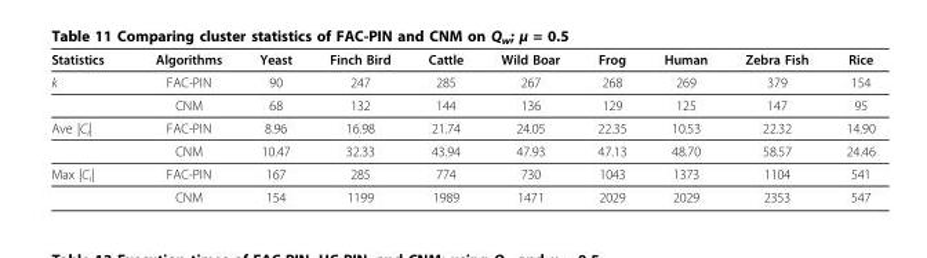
<table><thead><tr><td>Statistics</td><td>Algorithms</td><td>Yeast</td><td>Finch Bird</td><td>Cattle</td><td>Wild Boar</td><td>Frog</td><td>Human</td><td>Zebra Fish</td><td>Rice</td></tr></thead><tbody><tr><td rowspan="2">k</td><td>FAC-PIN</td><td>90</td><td>247</td><td>285</td><td>267</td><td>268</td><td>269</td><td>379</td><td>154</td></tr><tr><td>CNM</td><td>68</td><td>132</td><td>144</td><td>136</td><td>129</td><td>125</td><td>147</td><td>95</td></tr><tr><td rowspan="2">Ave |C<sub>i</sub>|</td><td>FAC-PIN</td><td>8.96</td><td>16.98</td><td>21.74</td><td>24.05</td><td>22.35</td><td>10.53</td><td>22.32</td><td>14.90</td></tr><tr><td>CNM</td><td>10.47</td><td>32.33</td><td>43.94</td><td>47.93</td><td>47.13</td><td>48.70</td><td>58.57</td><td>24.46</td></tr><tr><td rowspan="2">Max |C<sub>i</sub>|</td><td>FAC-PIN</td><td>167</td><td>285</td><td>774</td><td>730</td><td>1043</td><td>1373</td><td>1104</td><td>541</td></tr><tr><td>CNM</td><td>154</td><td>1199</td><td>1989</td><td>1471</td><td>2029</td><td>2029</td><td>2353</td><td>547</td></tr></tbody></table>